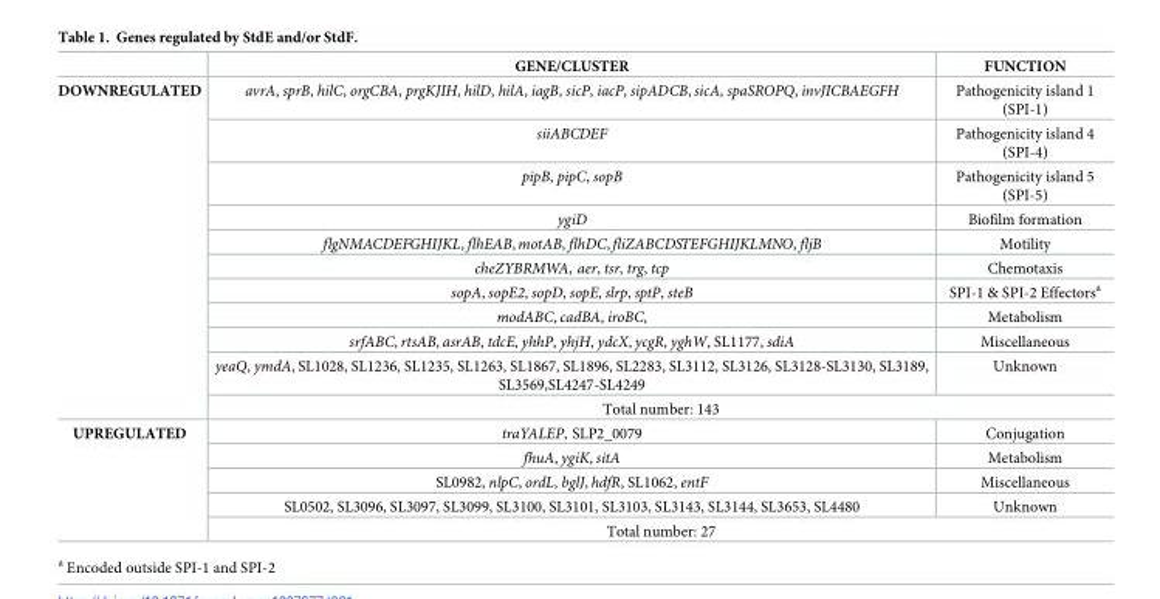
<table><thead><tr><td></td><td>GENE/CLUSTER</td><td>FUNCTION</td></tr></thead><tbody><tr><td rowspan="11">DOWNREGULATED</td><td>avrA, sprB, hilC, orgCBA, prgKJIH, hilD, hilA, iagB, sicP, iacP, sipADCB, sicA, spaSROPQ, invJICBAEGFH</td><td>Pathogenicity island 1 (SPI-1)</td></tr><tr><td>siiABCDEF</td><td>Pathogenicity island 4 (SPI-4)</td></tr><tr><td>pipB, pipC, sopB</td><td>Pathogenicity island 5 (SPI-5)</td></tr><tr><td>ygiD</td><td>Biofilm formation</td></tr><tr><td>flgNMACDEFGHIJKL, flhEAB, motAB, flhDC,fliZABCDSTEFGHIJKLMNO, fljB</td><td>Motility</td></tr><tr><td>cheZYBRMWA, aer, tsr, trg, tcp</td><td>Chemotaxis</td></tr><tr><td>sopA, sopE2, sopD, sopE, slrp, sptP, steB</td><td>SPI-1 &amp; SPI-2 Effectors<sup>a</sup></td></tr><tr><td>modABC, cadBA, iroBC,</td><td>Metabolism</td></tr><tr><td>srfABC, rtsAB, asrAB, tdcE, yhhP, yhjH, ydcX, ycgR, yghW, SL1177, sdiA</td><td>Miscellaneous</td></tr><tr><td>yeaQ, ymdA, SL1028, SL1236, SL1235, SL1263, SL1867, SL1896, SL2283, SL3112, SL3126, SL3128-SL3130, SL3189, SL3569,SL4247-SL4249</td><td>Unknown</td></tr><tr><td colspan="2">Total number: 143</td></tr><tr><td rowspan="5">UPREGULATED</td><td>traYALEP, SLP2_0079</td><td>Conjugation</td></tr><tr><td>fhuA, ygiK, sitA</td><td>Metabolism</td></tr><tr><td>SL0982, nlpC, ordL, bglJ, hdfR, SL1062, entF</td><td>Miscellaneous</td></tr><tr><td>SL0502, SL3096, SL3097, SL3099, SL3100, SL3101, SL3103, SL3143, SL3144, SL3653, SL4480</td><td>Unknown</td></tr><tr><td colspan="2">Total number: 27</td></tr></tbody></table>